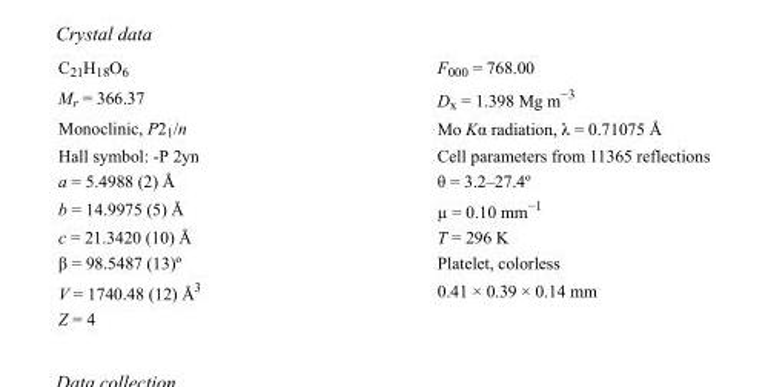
<table><tbody><tr><td>C<sub>21</sub>H<sub>18</sub>O<sub>6</sub></td><td>F000 = 768.00</td></tr><tr><td>M<sub>r</sub> = 366.37</td><td>D<sub>x</sub> = 1.398 Mg m<sup>−3</sup></td></tr><tr><td>Monoclinic, P2<sub>1</sub>/n</td><td>Mo Kα radiation, λ = 0.71075 Å</td></tr><tr><td>Hall symbol: -P 2yn</td><td>Cell parameters from 11365 reflections</td></tr><tr><td>a = 5.4988 (2) Å</td><td>θ = 3.2–27.4º</td></tr><tr><td>b = 14.9975 (5) Å</td><td>µ = 0.10 mm<sup>−1</sup></td></tr><tr><td>c = 21.3420 (10) Å</td><td>T = 296 K</td></tr><tr><td>β = 98.5487 (13)º</td><td>Platelet, colorless</td></tr><tr><td>V = 1740.48 (12) Å<sup>3</sup></td><td>0.41 × 0.39 × 0.14 mm</td></tr><tr><td>Z = 4</td><td></td></tr></tbody></table>